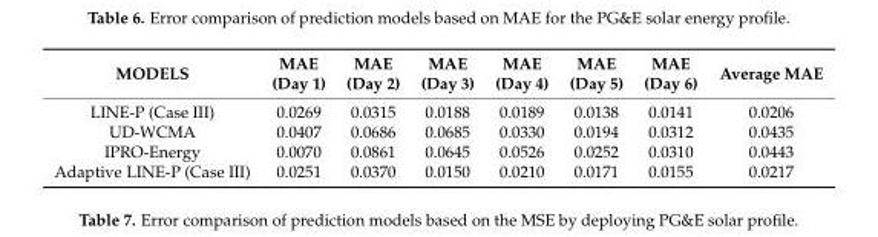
<table><thead><tr><td>MODELS</td><td>MAE (Day 1)</td><td>MAE (Day 2)</td><td>MAE (Day 3)</td><td>MAE (Day 4)</td><td>MAE (Day 5)</td><td>MAE (Day 6)</td><td>Average MAE</td></tr></thead><tbody><tr><td>LINE-P (Case III)</td><td>0.0269</td><td>0.0315</td><td>0.0188</td><td>0.0189</td><td>0.0138</td><td>0.0141</td><td>0.0206</td></tr><tr><td>UD-WCMA</td><td>0.0407</td><td>0.0686</td><td>0.0685</td><td>0.0330</td><td>0.0194</td><td>0.0312</td><td>0.0435</td></tr><tr><td>IPRO-Energy</td><td>0.0070</td><td>0.0861</td><td>0.0645</td><td>0.0526</td><td>0.0252</td><td>0.0310</td><td>0.0443</td></tr><tr><td>Adaptive LINE-P (Case III)</td><td>0.0251</td><td>0.0370</td><td>0.0150</td><td>0.0210</td><td>0.0171</td><td>0.0155</td><td>0.0217</td></tr></tbody></table>